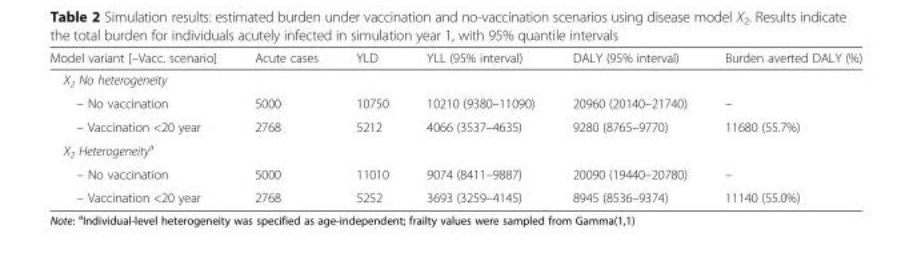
<table><thead><tr><td>Model variant [–Vacc. scenario]</td><td>Acute cases</td><td>YLD</td><td>YLL (95% interval)</td><td>DALY (95% interval)</td><td>Burden averted DALY (%)</td></tr></thead><tbody><tr><td colspan="6">X<sub>2</sub> No heterogeneity</td></tr><tr><td>– No vaccination</td><td>5000</td><td>10750</td><td>10210 (9380–11090)</td><td>20960 (20140–21740)</td><td>–</td></tr><tr><td>– Vaccination &lt;20 year</td><td>2768</td><td>5212</td><td>4066 (3537–4635)</td><td>9280 (8765–9770)</td><td>11680 (55.7%)</td></tr><tr><td colspan="6">X<sub>2</sub> Heterogeneity<sup>a</sup></td></tr><tr><td>– No vaccination</td><td>5000</td><td>11010</td><td>9074 (8411–9887)</td><td>20090 (19440–20780)</td><td>–</td></tr><tr><td>– Vaccination &lt;20 year</td><td>2768</td><td>5252</td><td>3693 (3259–4145)</td><td>8945 (8536–9374)</td><td>11140 (55.0%)</td></tr></tbody></table>